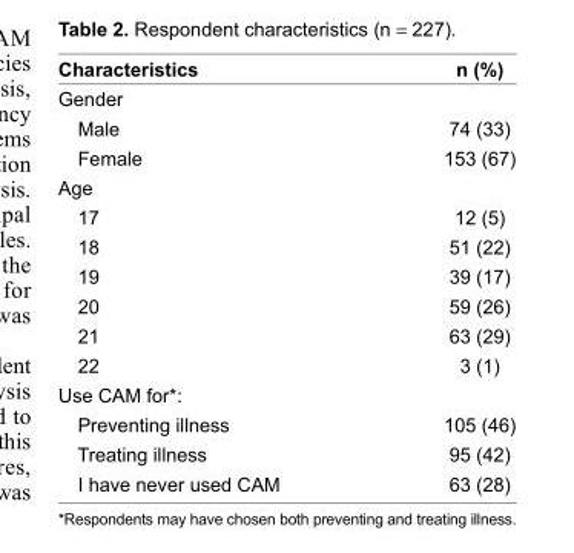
<table><thead><tr><td>Characteristics</td><td>n (%)</td></tr></thead><tbody><tr><td colspan="2">Gender</td></tr><tr><td>Male</td><td>74 (33)</td></tr><tr><td>Female</td><td>153 (67)</td></tr><tr><td colspan="2">Age</td></tr><tr><td>17</td><td>12 (5)</td></tr><tr><td>18</td><td>51 (22)</td></tr><tr><td>19</td><td>39 (17)</td></tr><tr><td>20</td><td>59 (26)</td></tr><tr><td>21</td><td>63 (29)</td></tr><tr><td>22</td><td>3 (1)</td></tr><tr><td colspan="2">Use CAM for*:</td></tr><tr><td>Preventing illness</td><td>105 (46)</td></tr><tr><td>Treating illness</td><td>95 (42)</td></tr><tr><td>I have never used CAM</td><td>63 (28)</td></tr></tbody></table>